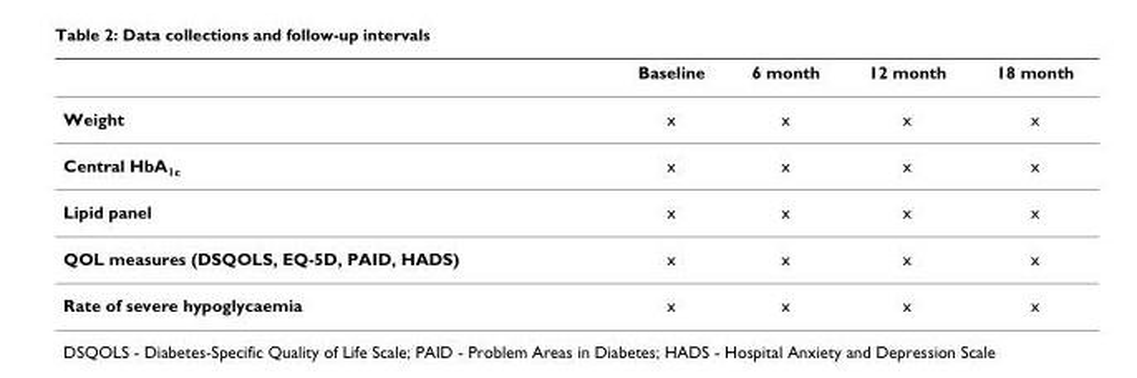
<table><thead><tr><td></td><td>Baseline</td><td>6 month</td><td>12 month</td><td>18 month</td></tr></thead><tbody><tr><td>Weight</td><td>x</td><td>x</td><td>x</td><td>x</td></tr><tr><td>Central HbA<sub>1c</sub></td><td>x</td><td>x</td><td>x</td><td>x</td></tr><tr><td>Lipid panel</td><td>x</td><td>x</td><td>x</td><td>x</td></tr><tr><td>QOL measures (DSQOLS, EQ-5D, PAID, HADS)</td><td>x</td><td>x</td><td>x</td><td>x</td></tr><tr><td>Rate of severe hypoglycaemia</td><td>x</td><td>x</td><td>x</td><td>x</td></tr></tbody></table>